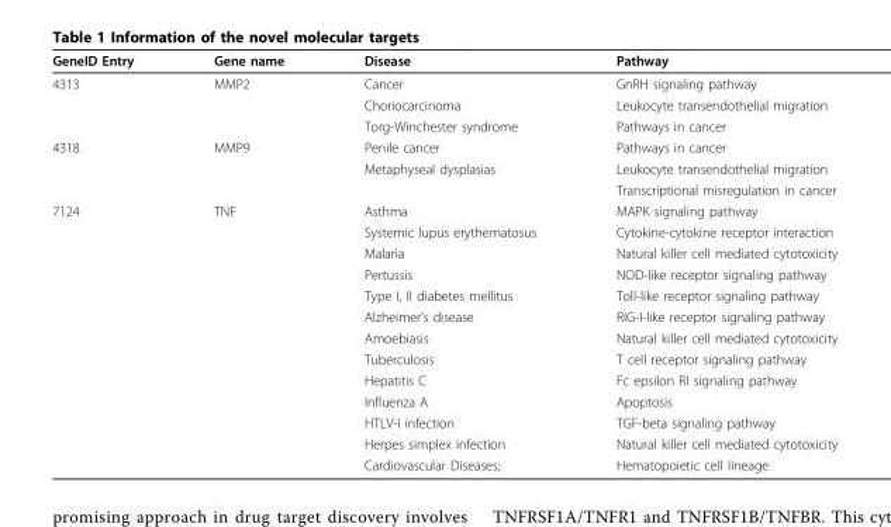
<table><thead><tr><td>GeneID Entry</td><td>Gene name</td><td>Disease</td><td>Pathway</td></tr></thead><tbody><tr><td rowspan="3">4313</td><td>MMP2</td><td>Cancer</td><td>GnRH signaling pathway</td></tr><tr><td></td><td>Choriocarcinoma</td><td>Leukocyte transendothelial migration</td></tr><tr><td></td><td>Torg-Winchester syndrome</td><td>Pathways in cancer</td></tr><tr><td rowspan="3">4318</td><td>MMP9</td><td>Penile cancer</td><td>Pathways in cancer</td></tr><tr><td></td><td>Metaphyseal dysplasias</td><td>Leukocyte transendothelial migration</td></tr><tr><td></td><td></td><td>Transcriptional misregulation in cancer</td></tr><tr><td rowspan="13">7124</td><td>TNF</td><td>Asthma</td><td>MAPK signaling pathway</td></tr><tr><td></td><td>Systemic lupus erythematosus</td><td>Cytokine-cytokine receptor interaction</td></tr><tr><td></td><td>Malaria</td><td>Natural killer cell mediated cytotoxicity</td></tr><tr><td></td><td>Pertussis</td><td>NOD-like receptor signaling pathway</td></tr><tr><td></td><td>Type I, II diabetes mellitus</td><td>Toll-like receptor signaling pathway</td></tr><tr><td></td><td>Alzheimer’s disease</td><td>RIG-I-like receptor signaling pathway</td></tr><tr><td></td><td>Amoebiasis</td><td>Natural killer cell mediated cytotoxicity</td></tr><tr><td></td><td>Tuberculosis</td><td>T cell receptor signaling pathway</td></tr><tr><td></td><td>Hepatitis C</td><td>Fc epsilon RI signaling pathway</td></tr><tr><td></td><td>Influenza A</td><td>Apoptosis</td></tr><tr><td></td><td>HTLV-I infection</td><td>TGF-beta signaling pathway</td></tr><tr><td></td><td>Herpes simplex infection</td><td>Natural killer cell mediated cytotoxicity</td></tr><tr><td></td><td>Cardiovascular Diseases;</td><td>Hematopoietic cell lineage</td></tr></tbody></table>